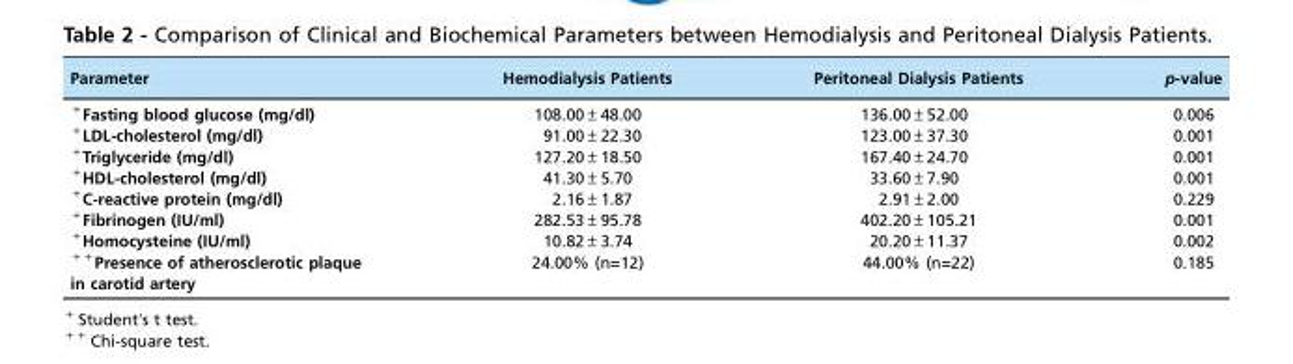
<table><thead><tr><td>Parameter</td><td>Hemodialysis Patients</td><td>Peritoneal Dialysis Patients</td><td>p-value</td></tr></thead><tbody><tr><td>+Fasting blood glucose (mg/dl)</td><td>108.00±48.00</td><td>136.00±52.00</td><td>0.006</td></tr><tr><td>+LDL-cholesterol (mg/dl)</td><td>91.00±22.30</td><td>123.00±37.30</td><td>0.001</td></tr><tr><td>+Triglyceride (mg/dl)</td><td>127.20±18.50</td><td>167.40±24.70</td><td>0.001</td></tr><tr><td>+HDL-cholesterol (mg/dl)</td><td>41.30±5.70</td><td>33.60±7.90</td><td>0.001</td></tr><tr><td>+C-reactive protein (mg/dl)</td><td>2.16±1.87</td><td>2.91±2.00</td><td>0.229</td></tr><tr><td>+Fibrinogen (IU/ml)</td><td>282.53±95.78</td><td>402.20±105.21</td><td>0.001</td></tr><tr><td>+Homocysteine (IU/ml)</td><td>10.82±3.74</td><td>20.20±11.37</td><td>0.002</td></tr><tr><td>++Presence of atherosclerotic plaque in carotid artery</td><td>24.00% (n=12)</td><td>44.00% (n=22)</td><td>0.185</td></tr></tbody></table>